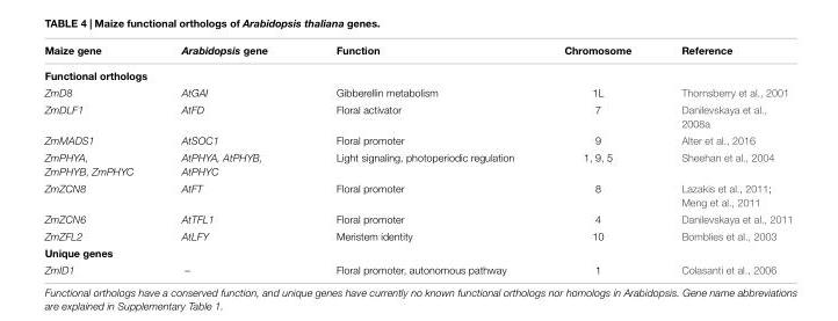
<table><thead><tr><td>Maize gene</td><td>Arabidopsis gene</td><td>Function</td><td>Chromosome</td><td>Reference</td></tr></thead><tbody><tr><td colspan="5">Functional orthologs</td></tr><tr><td>ZmD8</td><td>AtGAI</td><td>Gibberellin metabolism</td><td>1L</td><td>Thornsberry et al., 2001</td></tr><tr><td>ZmDLF1</td><td>AtFD</td><td>Floral activator</td><td>7</td><td>Danilevskaya et al., 2008a</td></tr><tr><td>ZmMADS1</td><td>AtSOC1</td><td>Floral promoter</td><td>9</td><td>Alter et al., 2016</td></tr><tr><td>ZmPHYA, ZmPHYB, ZmPHYC</td><td>AtPHYA, AtPHYB, AtPHYC</td><td>Light signaling, photoperiodic regulation</td><td>1, 9, 5</td><td>Sheehan et al., 2004</td></tr><tr><td>ZmZCN8</td><td>AtFT</td><td>Floral promoter</td><td>8</td><td>Lazakis et al., 2011; Meng et al., 2011</td></tr><tr><td>ZmZCN6</td><td>AtTFL1</td><td>Floral promoter</td><td>4</td><td>Danilevskaya et al., 2011</td></tr><tr><td>ZmZFL2</td><td>AtLFY</td><td>Meristem identity</td><td>10</td><td>Bomblies et al., 2003</td></tr><tr><td colspan="5">Unique genes</td></tr><tr><td>ZmID1</td><td>–</td><td>Floral promoter, autonomous pathway</td><td>1</td><td>Colasanti et al., 2006</td></tr></tbody></table>